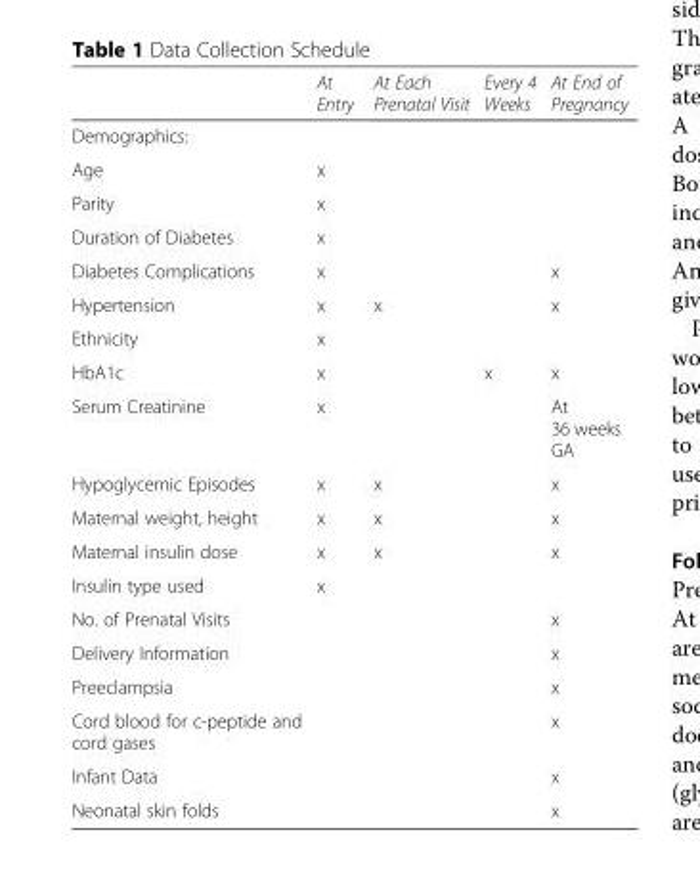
<table><thead><tr><td></td><td>At Entry</td><td>At Each Prenatal Visit</td><td>Every 4 Weeks</td><td>At End of Pregnancy</td></tr></thead><tbody><tr><td colspan="5">Demographics:</td></tr><tr><td>Age</td><td>x</td><td></td><td></td><td></td></tr><tr><td>Parity</td><td>x</td><td></td><td></td><td></td></tr><tr><td>Duration of Diabetes</td><td>x</td><td></td><td></td><td></td></tr><tr><td>Diabetes Complications</td><td>x</td><td></td><td></td><td>x</td></tr><tr><td>Hypertension</td><td>x</td><td>x</td><td></td><td>x</td></tr><tr><td>Ethnicity</td><td>x</td><td></td><td></td><td></td></tr><tr><td>HbA1c</td><td>x</td><td></td><td>x</td><td>x</td></tr><tr><td>Serum Creatinine</td><td>x</td><td></td><td></td><td>At 36 weeks GA</td></tr><tr><td>Hypoglycemic Episodes</td><td>x</td><td>x</td><td></td><td>x</td></tr><tr><td>Maternal weight, height</td><td>x</td><td>x</td><td></td><td>x</td></tr><tr><td>Maternal insulin dose</td><td>x</td><td>x</td><td></td><td>x</td></tr><tr><td>Insulin type used</td><td>x</td><td></td><td></td><td></td></tr><tr><td>No. of Prenatal Visits</td><td></td><td></td><td></td><td>x</td></tr><tr><td>Delivery Information</td><td></td><td></td><td></td><td>x</td></tr><tr><td>Preeclampsia</td><td></td><td></td><td></td><td>x</td></tr><tr><td>Cord blood for c-peptide and cord gases</td><td></td><td></td><td></td><td>x</td></tr><tr><td>Infant Data</td><td></td><td></td><td></td><td>x</td></tr><tr><td>Neonatal skin folds</td><td></td><td></td><td></td><td>x</td></tr></tbody></table>